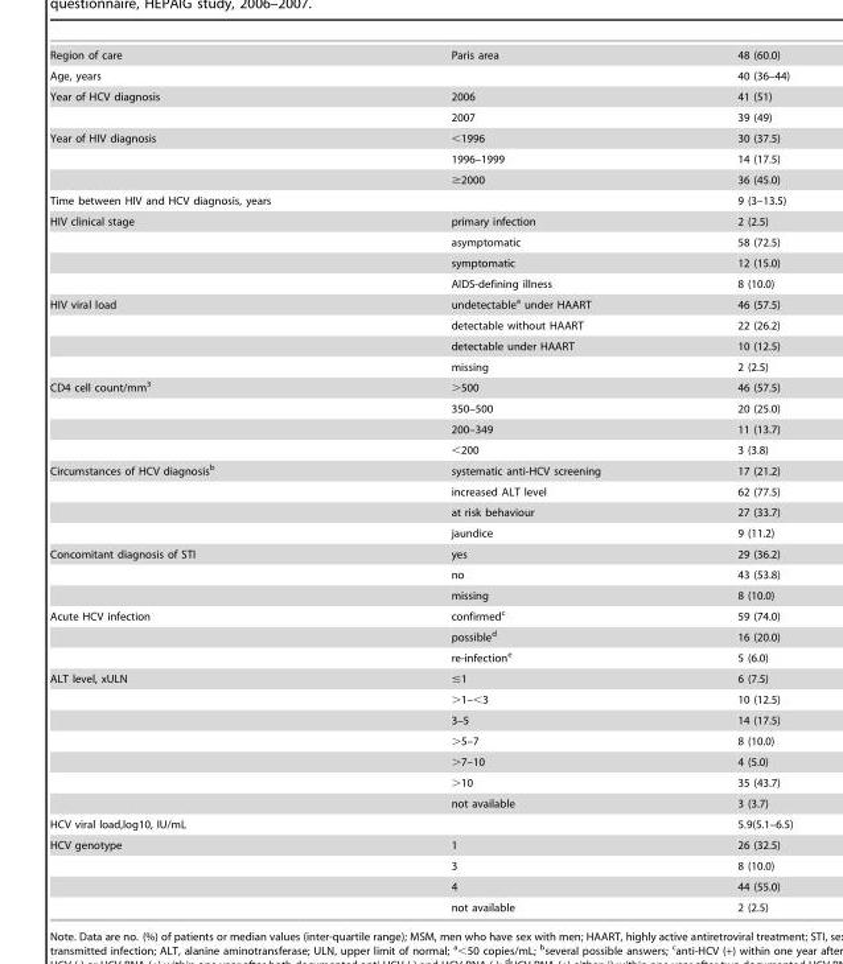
<table><tbody><tr><td>Region of care</td><td>Paris area</td><td>48 (60.0)</td></tr><tr><td>Age, years</td><td></td><td>40 (36–44)</td></tr><tr><td rowspan="2">Year of HCV diagnosis</td><td>2006</td><td>41 (51)</td></tr><tr><td>2007</td><td>39 (49)</td></tr><tr><td rowspan="3">Year of HIV diagnosis</td><td>&lt;1996</td><td>30 (37.5)</td></tr><tr><td>1996–1999</td><td>14 (17.5)</td></tr><tr><td>≥2000</td><td>36 (45.0)</td></tr><tr><td>Time between HIV and HCV diagnosis, years</td><td></td><td>9 (3–13.5)</td></tr><tr><td rowspan="4">HIV clinical stage</td><td>primary infection</td><td>2 (2.5)</td></tr><tr><td>asymptomatic</td><td>58 (72.5)</td></tr><tr><td>symptomatic</td><td>12 (15.0)</td></tr><tr><td>AIDS-defining illness</td><td>8 (10.0)</td></tr><tr><td rowspan="4">HIV viral load</td><td>undetectable<sup>a</sup> under HAART</td><td>46 (57.5)</td></tr><tr><td>detectable without HAART</td><td>22 (26.2)</td></tr><tr><td>detectable under HAART</td><td>10 (12.5)</td></tr><tr><td>missing</td><td>2 (2.5)</td></tr><tr><td rowspan="4">CD4 cell count/mm<sup>3</sup></td><td>&gt;500</td><td>46 (57.5)</td></tr><tr><td>350–500</td><td>20 (25.0)</td></tr><tr><td>200–349</td><td>11 (13.7)</td></tr><tr><td>&lt;200</td><td>3 (3.8)</td></tr><tr><td rowspan="4">Circumstances of HCV diagnosis<sup>b</sup></td><td>systematic anti-HCV screening</td><td>17 (21.2)</td></tr><tr><td>increased ALT level</td><td>62 (77.5)</td></tr><tr><td>at risk behaviour</td><td>27 (33.7)</td></tr><tr><td>jaundice</td><td>9 (11.2)</td></tr><tr><td rowspan="3">Concomitant diagnosis of STI</td><td>yes</td><td>29 (36.2)</td></tr><tr><td>no</td><td>43 (53.8)</td></tr><tr><td>missing</td><td>8 (10.0)</td></tr><tr><td rowspan="3">Acute HCV infection</td><td>confirmed<sup>c</sup></td><td>59 (74.0)</td></tr><tr><td>possible<sup>d</sup></td><td>16 (20.0)</td></tr><tr><td>re-infection<sup>e</sup></td><td>5 (6.0)</td></tr><tr><td rowspan="7">ALT level, xULN</td><td>≤1</td><td>6 (7.5)</td></tr><tr><td>&gt;1–&lt;3</td><td>10 (12.5)</td></tr><tr><td>3–5</td><td>14 (17.5)</td></tr><tr><td>&gt;5–7</td><td>8 (10.0)</td></tr><tr><td>&gt;7–10</td><td>4 (5.0)</td></tr><tr><td>&gt;10</td><td>35 (43.7)</td></tr><tr><td>not available</td><td>3 (3.7)</td></tr><tr><td>HCV viral load,log10, IU/mL</td><td></td><td>5.9(5.1–6.5)</td></tr><tr><td rowspan="4">HCV genotype</td><td>1</td><td>26 (32.5)</td></tr><tr><td>3</td><td>8 (10.0)</td></tr><tr><td>4</td><td>44 (55.0)</td></tr><tr><td>not available</td><td>2 (2.5)</td></tr></tbody></table>